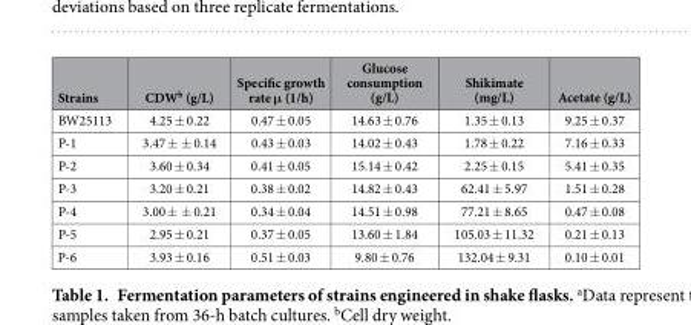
<table><thead><tr><td>Strains</td><td>CDW<sup>b</sup> (g/L)</td><td>Specific growth rate μ (1/h)</td><td>Glucose consumption (g/L)</td><td>Shikimate (mg/L)</td><td>Acetate (g/L)</td></tr></thead><tbody><tr><td>BW25113</td><td>4.25 ± 0.22</td><td>0.47 ± 0.05</td><td>14.63 ± 0.76</td><td>1.35 ± 0.13</td><td>9.25 ± 0.37</td></tr><tr><td>P-1</td><td>3.47 ± ± 0.14</td><td>0.43 ± 0.03</td><td>14.02 ± 0.43</td><td>1.78 ± 0.22</td><td>7.16 ± 0.33</td></tr><tr><td>P-2</td><td>3.60 ± 0.34</td><td>0.41 ± 0.05</td><td>15.14 ± 0.42</td><td>2.25 ± 0.15</td><td>5.41 ± 0.35</td></tr><tr><td>P-3</td><td>3.20 ± 0.21</td><td>0.38 ± 0.02</td><td>14.82 ± 0.43</td><td>62.41 ± 5.97</td><td>1.51 ± 0.28</td></tr><tr><td>P-4</td><td>3.00 ± ± 0.21</td><td>0.34 ± 0.04</td><td>14.51 ± 0.98</td><td>77.21 ± 8.65</td><td>0.47 ± 0.08</td></tr><tr><td>P-5</td><td>2.95 ± 0.21</td><td>0.37 ± 0.05</td><td>13.60 ± 1.84</td><td>105.03 ± 11.32</td><td>0.21 ± 0.13</td></tr><tr><td>P-6</td><td>3.93 ± 0.16</td><td>0.51 ± 0.03</td><td>9.80 ± 0.76</td><td>132.04 ± 9.31</td><td>0.10 ± 0.01</td></tr></tbody></table>